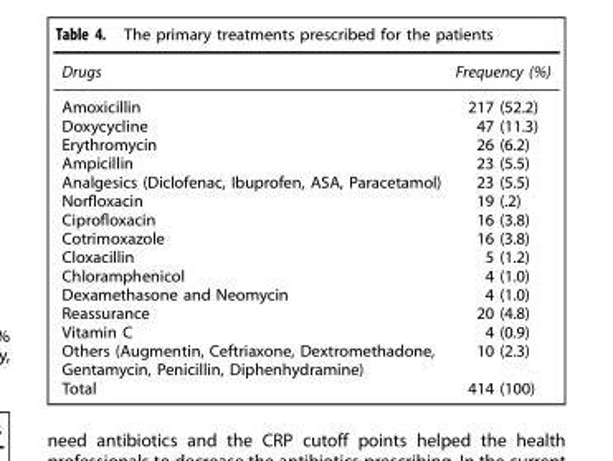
<table><thead><tr><td>Drugs</td><td>Frequency (%)</td></tr></thead><tbody><tr><td>Amoxicillin</td><td>217 (52.2)</td></tr><tr><td>Doxycycline</td><td>47 (11.3)</td></tr><tr><td>Erythromycin</td><td>26 (6.2)</td></tr><tr><td>Ampicillin</td><td>23 (5.5)</td></tr><tr><td>Analgesics (Diclofenac, Ibuprofen, ASA, Paracetamol)</td><td>23 (5.5)</td></tr><tr><td>Norfloxacin</td><td>19 (.2)</td></tr><tr><td>Ciprofloxacin</td><td>16 (3.8)</td></tr><tr><td>Cotrimoxazole</td><td>16 (3.8)</td></tr><tr><td>Cloxacillin</td><td>5 (1.2)</td></tr><tr><td>Chloramphenicol</td><td>4 (1.0)</td></tr><tr><td>Dexamethasone and Neomycin</td><td>4 (1.0)</td></tr><tr><td>Reassurance</td><td>20 (4.8)</td></tr><tr><td>Vitamin C</td><td>4 (0.9)</td></tr><tr><td>Others (Augmentin, Ceftriaxone, Dextromethadone, Gentamycin, Penicillin, Diphenhydramine)</td><td>10 (2.3)</td></tr><tr><td>Total</td><td>414 (100)</td></tr></tbody></table>